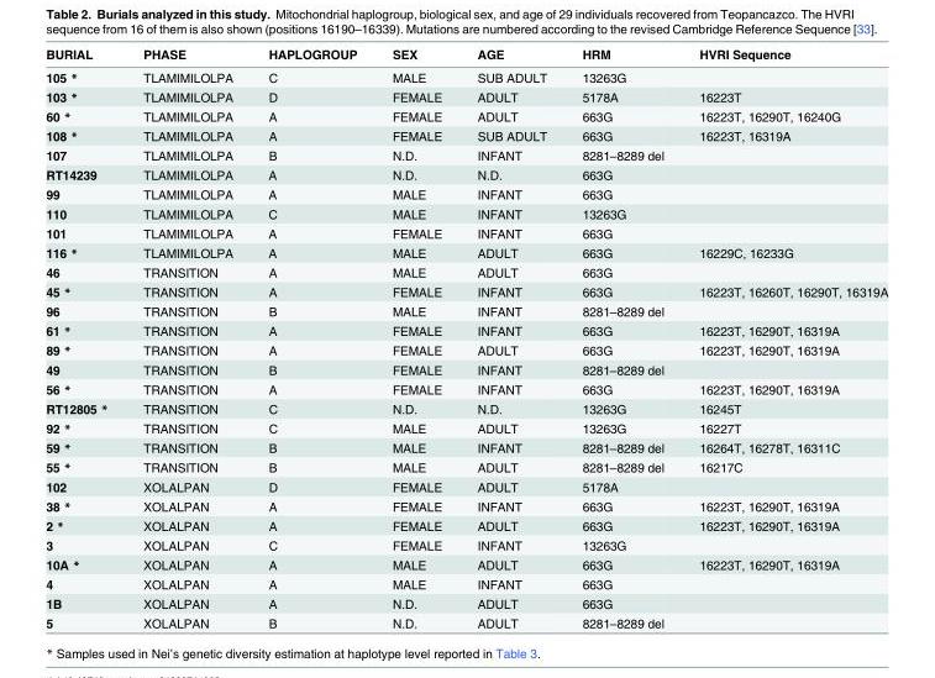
<table><thead><tr><td>BURIAL</td><td>PHASE</td><td>HAPLOGROUP</td><td>SEX</td><td>AGE</td><td>HRM</td><td>HVRI Sequence</td></tr></thead><tbody><tr><td>105 *</td><td>TLAMIMILOLPA</td><td>C</td><td>MALE</td><td>SUB ADULT</td><td>13263G</td><td></td></tr><tr><td>103 *</td><td>TLAMIMILOLPA</td><td>D</td><td>FEMALE</td><td>ADULT</td><td>5178A</td><td>16223T</td></tr><tr><td>60 *</td><td>TLAMIMILOLPA</td><td>A</td><td>FEMALE</td><td>ADULT</td><td>663G</td><td>16223T, 16290T, 16240G</td></tr><tr><td>108 *</td><td>TLAMIMILOLPA</td><td>A</td><td>FEMALE</td><td>SUB ADULT</td><td>663G</td><td>16223T, 16319A</td></tr><tr><td>107</td><td>TLAMIMILOLPA</td><td>B</td><td>N.D.</td><td>INFANT</td><td>8281–8289 del</td><td></td></tr><tr><td>RT14239</td><td>TLAMIMILOLPA</td><td>A</td><td>N.D.</td><td>N.D.</td><td>663G</td><td></td></tr><tr><td>99</td><td>TLAMIMILOLPA</td><td>A</td><td>MALE</td><td>INFANT</td><td>663G</td><td></td></tr><tr><td>110</td><td>TLAMIMILOLPA</td><td>C</td><td>MALE</td><td>INFANT</td><td>13263G</td><td></td></tr><tr><td>101</td><td>TLAMIMILOLPA</td><td>A</td><td>FEMALE</td><td>INFANT</td><td>663G</td><td></td></tr><tr><td>116 *</td><td>TLAMIMILOLPA</td><td>A</td><td>MALE</td><td>ADULT</td><td>663G</td><td>16229C, 16233G</td></tr><tr><td>46</td><td>TRANSITION</td><td>A</td><td>MALE</td><td>ADULT</td><td>663G</td><td></td></tr><tr><td>45 *</td><td>TRANSITION</td><td>A</td><td>FEMALE</td><td>INFANT</td><td>663G</td><td>16223T, 16260T, 16290T, 16319A</td></tr><tr><td>96</td><td>TRANSITION</td><td>B</td><td>MALE</td><td>INFANT</td><td>8281–8289 del</td><td></td></tr><tr><td>61 *</td><td>TRANSITION</td><td>A</td><td>FEMALE</td><td>INFANT</td><td>663G</td><td>16223T, 16290T, 16319A</td></tr><tr><td>89 *</td><td>TRANSITION</td><td>A</td><td>FEMALE</td><td>ADULT</td><td>663G</td><td>16223T, 16290T, 16319A</td></tr><tr><td>49</td><td>TRANSITION</td><td>B</td><td>FEMALE</td><td>INFANT</td><td>8281–8289 del</td><td></td></tr><tr><td>56 *</td><td>TRANSITION</td><td>A</td><td>FEMALE</td><td>INFANT</td><td>663G</td><td>16223T, 16290T, 16319A</td></tr><tr><td>RT12805 *</td><td>TRANSITION</td><td>C</td><td>N.D.</td><td>N.D.</td><td>13263G</td><td>16245T</td></tr><tr><td>92 *</td><td>TRANSITION</td><td>C</td><td>MALE</td><td>ADULT</td><td>13263G</td><td>16227T</td></tr><tr><td>59 *</td><td>TRANSITION</td><td>B</td><td>MALE</td><td>INFANT</td><td>8281–8289 del</td><td>16264T, 16278T, 16311C</td></tr><tr><td>55 *</td><td>TRANSITION</td><td>B</td><td>MALE</td><td>ADULT</td><td>8281–8289 del</td><td>16217C</td></tr><tr><td>102</td><td>XOLALPAN</td><td>D</td><td>FEMALE</td><td>ADULT</td><td>5178A</td><td></td></tr><tr><td>38 *</td><td>XOLALPAN</td><td>A</td><td>FEMALE</td><td>INFANT</td><td>663G</td><td>16223T, 16290T, 16319A</td></tr><tr><td>2 *</td><td>XOLALPAN</td><td>A</td><td>FEMALE</td><td>ADULT</td><td>663G</td><td>16223T, 16290T, 16319A</td></tr><tr><td>3</td><td>XOLALPAN</td><td>C</td><td>FEMALE</td><td>INFANT</td><td>13263G</td><td></td></tr><tr><td>10A *</td><td>XOLALPAN</td><td>A</td><td>MALE</td><td>ADULT</td><td>663G</td><td>16223T, 16290T, 16319A</td></tr><tr><td>4</td><td>XOLALPAN</td><td>A</td><td>MALE</td><td>INFANT</td><td>663G</td><td></td></tr><tr><td>1B</td><td>XOLALPAN</td><td>A</td><td>N.D.</td><td>ADULT</td><td>663G</td><td></td></tr><tr><td>5</td><td>XOLALPAN</td><td>B</td><td>N.D.</td><td>ADULT</td><td>8281–8289 del</td><td></td></tr></tbody></table>